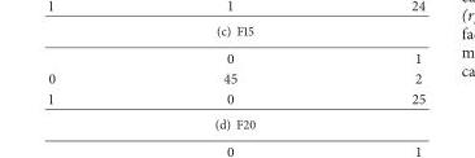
<table><thead><tr><td></td><td>0</td><td>1</td></tr></thead><tbody><tr><td>0</td><td>45</td><td>2</td></tr><tr><td>1</td><td>0</td><td>25</td></tr></tbody></table>